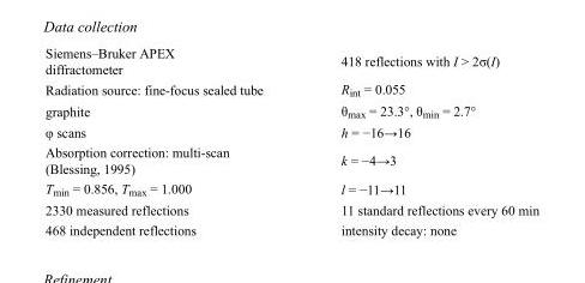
<table><tbody><tr><td>Siemens–Bruker APEX diffractometer</td><td>418 reflections with I &gt; 2σ(I)</td></tr><tr><td>Radiation source: fine-focus sealed tube</td><td>R<sub>int</sub> = 0.055</td></tr><tr><td>graphite</td><td>θ<sub>max</sub> = 23.3°, θ<sub>min</sub> = 2.7°</td></tr><tr><td>φ scans</td><td>h = −16→16</td></tr><tr><td>Absorption correction: multi-scan (Blessing, 1995)</td><td>k = −4→3</td></tr><tr><td>T<sub>min</sub> = 0.856, T<sub>max</sub> = 1.000</td><td>l = −11→11</td></tr><tr><td>2330 measured reflections</td><td>11 standard reflections every 60 min</td></tr><tr><td>468 independent reflections</td><td>intensity decay: none</td></tr></tbody></table>